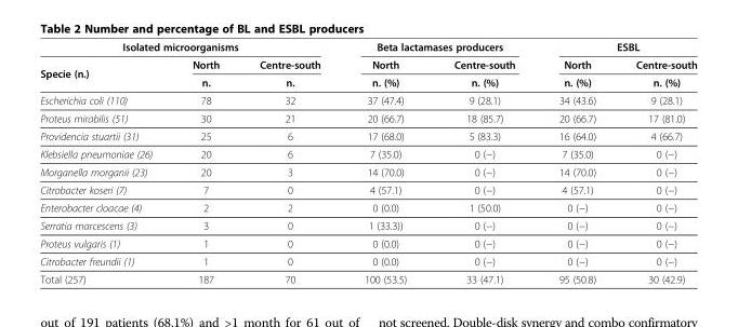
<table><thead><tr><td colspan="3">Isolated microorganisms</td><td colspan="2">Beta lactamases producers</td><td colspan="2">ESBL</td></tr><tr><td rowspan="2">Specie (n.)</td><td rowspan="2">North n.</td><td rowspan="2">Centre-south n.</td><td rowspan="2">North n. (%)</td><td rowspan="2">Centre-south n. (%)</td><td rowspan="2">North n. (%)</td><td rowspan="2">Centre-south n. (%)</td></tr><tr></tr></thead><tbody><tr><td>Escherichia coli (110)</td><td>78</td><td>32</td><td>37 (47.4)</td><td>9 (28.1)</td><td>34 (43.6)</td><td>9 (28.1)</td></tr><tr><td>Proteus mirabilis (51)</td><td>30</td><td>21</td><td>20 (66.7)</td><td>18 (85.7)</td><td>20 (66.7)</td><td>17 (81.0)</td></tr><tr><td>Providencia stuartii (31)</td><td>25</td><td>6</td><td>17 (68.0)</td><td>5 (83.3)</td><td>16 (64.0)</td><td>4 (66.7)</td></tr><tr><td>Klebsiella pneumoniae (26)</td><td>20</td><td>6</td><td>7 (35.0)</td><td>0 (−)</td><td>7 (35.0)</td><td>0 (−)</td></tr><tr><td>Morganella morganii (23)</td><td>20</td><td>3</td><td>14 (70.0)</td><td>0 (−)</td><td>14 (70.0)</td><td>0 (−)</td></tr><tr><td>Citrobacter koseri (7)</td><td>7</td><td>0</td><td>4 (57.1)</td><td>0 (−)</td><td>4 (57.1)</td><td>0 (−)</td></tr><tr><td>Enterobacter cloacae (4)</td><td>2</td><td>2</td><td>0 (0.0)</td><td>1 (50.0)</td><td>0 (−)</td><td>0 (−)</td></tr><tr><td>Serratia marcescens (3)</td><td>3</td><td>0</td><td>1 (33.3))</td><td>0 (−)</td><td>0 (−)</td><td>0 (−)</td></tr><tr><td>Proteus vulgaris (1)</td><td>1</td><td>0</td><td>0 (0.0)</td><td>0 (−)</td><td>0 (−)</td><td>0 (−)</td></tr><tr><td>Citrobacter freundii (1)</td><td>1</td><td>0</td><td>0 (0.0)</td><td>0 (−)</td><td>0 (−)</td><td>0 (−)</td></tr><tr><td>Total (257)</td><td>187</td><td>70</td><td>100 (53.5)</td><td>33 (47.1)</td><td>95 (50.8)</td><td>30 (42.9)</td></tr></tbody></table>